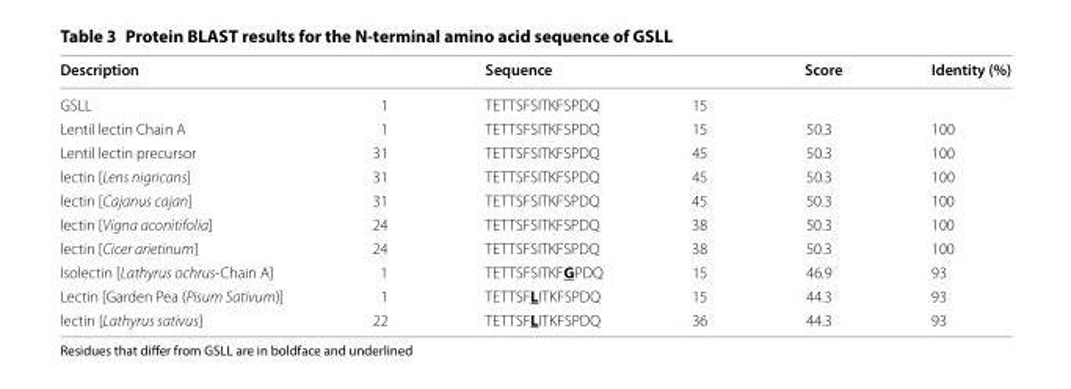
<table><thead><tr><td>Description</td><td></td><td>Sequence</td><td></td><td>Score</td><td>Identity (%)</td></tr></thead><tbody><tr><td>GSLL</td><td>1</td><td>TETTSFSITKFSPDQ</td><td>15</td><td></td><td></td></tr><tr><td>Lentil lectin Chain A</td><td>1</td><td>TETTSFSITKFSPDQ</td><td>15</td><td>50.3</td><td>100</td></tr><tr><td>Lentil lectin precursor</td><td>31</td><td>TETTSFSITKFSPDQ</td><td>45</td><td>50.3</td><td>100</td></tr><tr><td>lectin [Lens nigricans]</td><td>31</td><td>TETTSFSITKFSPDQ</td><td>45</td><td>50.3</td><td>100</td></tr><tr><td>lectin [Cajanus cajan]</td><td>31</td><td>TETTSFSITKFSPDQ</td><td>45</td><td>50.3</td><td>100</td></tr><tr><td>lectin [Vigna aconitifolia]</td><td>24</td><td>TETTSFSITKFSPDQ</td><td>38</td><td>50.3</td><td>100</td></tr><tr><td>lectin [Cicer arietinum]</td><td>24</td><td>TETTSFSITKFSPDQ</td><td>38</td><td>50.3</td><td>100</td></tr><tr><td>Isolectin [Lathyrus ochrus-Chain A]</td><td>1</td><td>TETTSFSITKFGPDQ</td><td>15</td><td>46.9</td><td>93</td></tr><tr><td>Lectin [Garden Pea (Pisum Sativum)]</td><td>1</td><td>TETTSFLITKFSPDQ</td><td>15</td><td>44.3</td><td>93</td></tr><tr><td>lectin [Lathyrus sativus]</td><td>22</td><td>TETTSFLITKFSPDQ</td><td>36</td><td>44.3</td><td>93</td></tr></tbody></table>